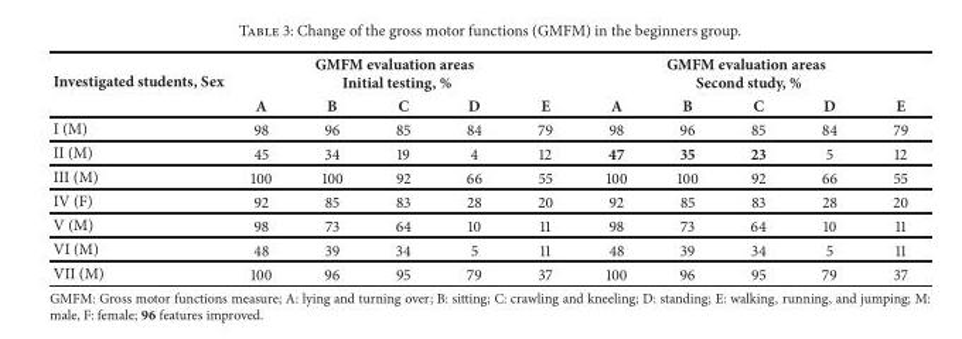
<table><thead><tr><td rowspan="2">Investigated students, Sex</td><td colspan="5">GMFM evaluation areas Initial testing, %</td><td colspan="5">GMFM evaluation areas Second study, %</td></tr><tr><td>A</td><td>B</td><td>C</td><td>D</td><td>E</td><td>A</td><td>B</td><td>C</td><td>D</td><td>E</td></tr></thead><tbody><tr><td>I (M)</td><td>98</td><td>96</td><td>85</td><td>84</td><td>79</td><td>98</td><td>96</td><td>85</td><td>84</td><td>79</td></tr><tr><td>II (M)</td><td>45</td><td>34</td><td>19</td><td>4</td><td>12</td><td>47</td><td>35</td><td>23</td><td>5</td><td>12</td></tr><tr><td>III (M)</td><td>100</td><td>100</td><td>92</td><td>66</td><td>55</td><td>100</td><td>100</td><td>92</td><td>66</td><td>55</td></tr><tr><td>IV (F)</td><td>92</td><td>85</td><td>83</td><td>28</td><td>20</td><td>92</td><td>85</td><td>83</td><td>28</td><td>20</td></tr><tr><td>V (M)</td><td>98</td><td>73</td><td>64</td><td>10</td><td>11</td><td>98</td><td>73</td><td>64</td><td>10</td><td>11</td></tr><tr><td>VI (M)</td><td>48</td><td>39</td><td>34</td><td>5</td><td>11</td><td>48</td><td>39</td><td>34</td><td>5</td><td>11</td></tr><tr><td>VII (M)</td><td>100</td><td>96</td><td>95</td><td>79</td><td>37</td><td>100</td><td>96</td><td>95</td><td>79</td><td>37</td></tr></tbody></table>